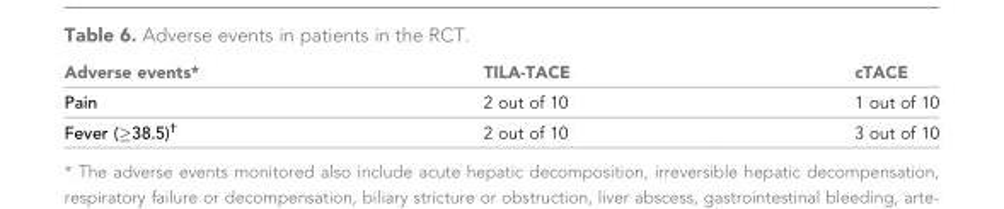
<table><thead><tr><td>Adverse events*</td><td>TILA-TACE</td><td>cTACE</td></tr></thead><tbody><tr><td>Pain</td><td>2 out of 10</td><td>1 out of 10</td></tr><tr><td>Fever (≥38.5)<sup>†</sup></td><td>2 out of 10</td><td>3 out of 10</td></tr></tbody></table>